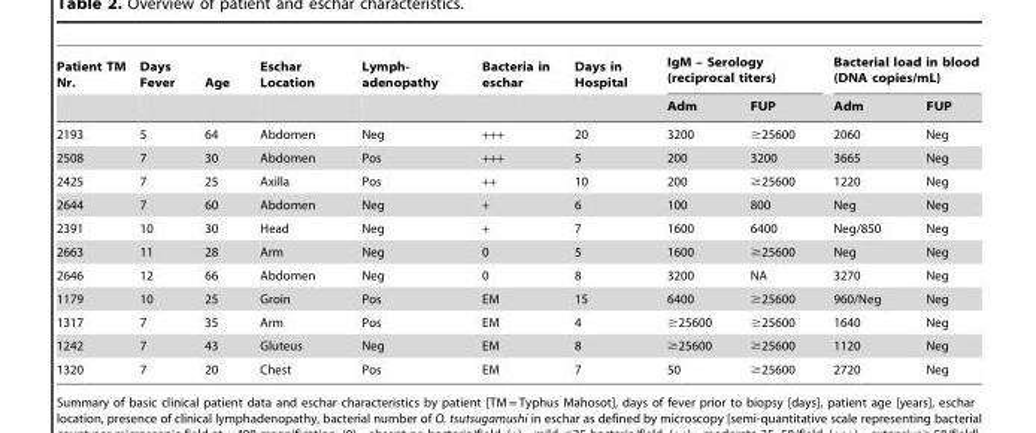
<table><thead><tr><td rowspan="2">Patient TM Nr.</td><td rowspan="2">Days Fever</td><td rowspan="2">Age</td><td rowspan="2">Eschar Location</td><td rowspan="2">Lymph- adenopathy</td><td rowspan="2">Bacteria in eschar</td><td rowspan="2">Days in Hospital</td><td colspan="2">IgM – Serology (reciprocal titers)</td><td colspan="2">Bacterial load in blood (DNA copies/mL)</td></tr><tr><td>Adm</td><td>FUP</td><td>Adm</td><td>FUP</td></tr></thead><tbody><tr><td>2193</td><td>5</td><td>64</td><td>Abdomen</td><td>Neg</td><td>+++</td><td>20</td><td>3200</td><td>≥25600</td><td>2060</td><td>Neg</td></tr><tr><td>2508</td><td>7</td><td>30</td><td>Abdomen</td><td>Pos</td><td>+++</td><td>5</td><td>200</td><td>3200</td><td>3665</td><td>Neg</td></tr><tr><td>2425</td><td>7</td><td>25</td><td>Axilla</td><td>Pos</td><td>++</td><td>10</td><td>200</td><td>≥25600</td><td>1220</td><td>Neg</td></tr><tr><td>2644</td><td>7</td><td>60</td><td>Abdomen</td><td>Neg</td><td>+</td><td>6</td><td>100</td><td>800</td><td>Neg</td><td>Neg</td></tr><tr><td>2391</td><td>10</td><td>30</td><td>Head</td><td>Neg</td><td>+</td><td>7</td><td>1600</td><td>6400</td><td>Neg/850</td><td>Neg</td></tr><tr><td>2663</td><td>11</td><td>28</td><td>Arm</td><td>Neg</td><td>0</td><td>5</td><td>1600</td><td>≥25600</td><td>Neg</td><td>Neg</td></tr><tr><td>2646</td><td>12</td><td>66</td><td>Abdomen</td><td>Neg</td><td>0</td><td>8</td><td>3200</td><td>NA</td><td>3270</td><td>Neg</td></tr><tr><td>1179</td><td>10</td><td>25</td><td>Groin</td><td>Pos</td><td>EM</td><td>15</td><td>6400</td><td>≥25600</td><td>960/Neg</td><td>Neg</td></tr><tr><td>1317</td><td>7</td><td>35</td><td>Arm</td><td>Pos</td><td>EM</td><td>4</td><td>≥25600</td><td>≥25600</td><td>1640</td><td>Neg</td></tr><tr><td>1242</td><td>7</td><td>43</td><td>Gluteus</td><td>Neg</td><td>EM</td><td>8</td><td>≥25600</td><td>≥25600</td><td>1120</td><td>Neg</td></tr><tr><td>1320</td><td>7</td><td>20</td><td>Chest</td><td>Pos</td><td>EM</td><td>7</td><td>50</td><td>≥25600</td><td>2720</td><td>Neg</td></tr></tbody></table>